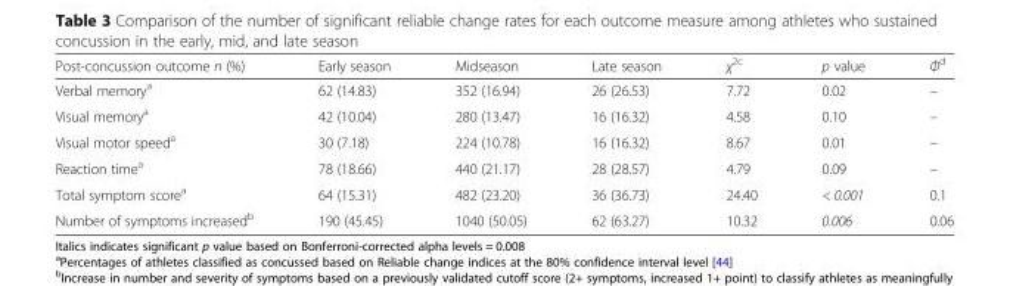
<table><thead><tr><td>Post-concussion outcome n (%)</td><td>Early season</td><td>Midseason</td><td>Late season</td><td>χ<sup>2c</sup></td><td>p value</td><td>Φ<sup>d</sup></td></tr></thead><tbody><tr><td>Verbal memory<sup>a</sup></td><td>62 (14.83)</td><td>352 (16.94)</td><td>26 (26.53)</td><td>7.72</td><td>0.02</td><td>–</td></tr><tr><td>Visual memory<sup>a</sup></td><td>42 (10.04)</td><td>280 (13.47)</td><td>16 (16.32)</td><td>4.58</td><td>0.10</td><td>–</td></tr><tr><td>Visual motor speed<sup>a</sup></td><td>30 (7.18)</td><td>224 (10.78)</td><td>16 (16.32)</td><td>8.67</td><td>0.01</td><td>–</td></tr><tr><td>Reaction time<sup>a</sup></td><td>78 (18.66)</td><td>440 (21.17)</td><td>28 (28.57)</td><td>4.79</td><td>0.09</td><td>–</td></tr><tr><td>Total symptom score<sup>a</sup></td><td>64 (15.31)</td><td>482 (23.20)</td><td>36 (36.73)</td><td>24.40</td><td>&lt; 0.001</td><td>0.1</td></tr><tr><td>Number of symptoms increased<sup>b</sup></td><td>190 (45.45)</td><td>1040 (50.05)</td><td>62 (63.27)</td><td>10.32</td><td>0.006</td><td>0.06</td></tr></tbody></table>